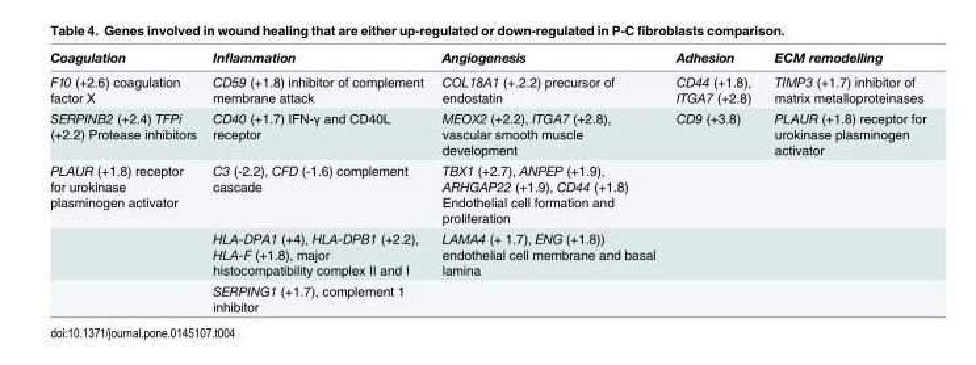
<table><thead><tr><td>Coagulation</td><td>Inflammation</td><td>Angiogenesis</td><td>Adhesion</td><td>ECM remodelling</td></tr></thead><tbody><tr><td>F10 (+2.6) coagulation factor X</td><td>CD59 (+1.8) inhibitor of complement membrane attack</td><td>COL18A1 (+.2.2) precursor of endostatin</td><td>CD44 (+1.8), ITGA7 (+2.8)</td><td>TIMP3 (+1.7) inhibitor of matrix metalloproteinases</td></tr><tr><td>SERPINB2 (+2.4) TFPi (+2.2) Protease inhibitors</td><td>CD40 (+1.7) IFN-γ and CD40L receptor</td><td>MEOX2 (+2.2), ITGA7 (+2.8), vascular smooth muscle development</td><td>CD9 (+3.8)</td><td>PLAUR (+1.8) receptor for urokinase plasminogen activator</td></tr><tr><td rowspan="3">PLAUR (+1.8) receptor for urokinase plasminogen activator</td><td>C3 (-2.2), CFD (-1.6) complement cascade</td><td>TBX1 (+2.7), ANPEP (+1.9), ARHGAP22 (+1.9), CD44 (+1.8) Endothelial cell formation and proliferation</td><td></td><td></td></tr><tr><td>HLA-DPA1 (+4), HLA-DPB1 (+2.2), HLA-F (+1.8), major histocompatibility complex II and I</td><td>LAMA4 (+ 1.7), ENG (+1.8)) endothelial cell membrane and basal lamina</td><td></td><td></td></tr><tr><td>SERPING1 (+1.7), complement 1 inhibitor</td><td></td><td></td><td></td></tr></tbody></table>